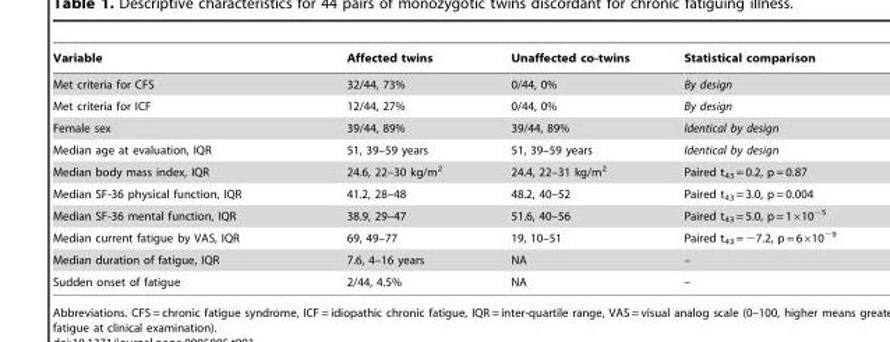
<table><thead><tr><td>Variable</td><td>Affected twins</td><td>Unaffected co-twins</td><td>Statistical comparison</td></tr></thead><tbody><tr><td>Met criteria for CFS</td><td>32/44, 73%</td><td>0/44, 0%</td><td>By design</td></tr><tr><td>Met criteria for ICF</td><td>12/44, 27%</td><td>0/44, 0%</td><td>By design</td></tr><tr><td>Female sex</td><td>39/44, 89%</td><td>39/44, 89%</td><td>Identical by design</td></tr><tr><td>Median age at evaluation, IQR</td><td>51, 39–59 years</td><td>51, 39–59 years</td><td>Identical by design</td></tr><tr><td>Median body mass index, IQR</td><td>24.6, 22–30 kg/m<sup>2</sup></td><td>24.4, 22–31 kg/m<sup>2</sup></td><td>Paired t<sub>43</sub> = 0.2, p = 0.87</td></tr><tr><td>Median SF-36 physical function, IQR</td><td>41.2, 28–48</td><td>48.2, 40–52</td><td>Paired t<sub>43</sub> = 3.0, p = 0.004</td></tr><tr><td>Median SF-36 mental function, IQR</td><td>38.9, 29–47</td><td>51.6, 40–56</td><td>Paired t<sub>43</sub> = 5.0, p = 1×10<sup>−5</sup></td></tr><tr><td>Median current fatigue by VAS, IQR</td><td>69, 49–77</td><td>19, 10–51</td><td>Paired t<sub>43</sub> = −7.2, p = 6×10<sup>−9</sup></td></tr><tr><td>Median duration of fatigue, IQR</td><td>7.6, 4–16 years</td><td>NA</td><td>–</td></tr><tr><td>Sudden onset of fatigue</td><td>2/44, 4.5%</td><td>NA</td><td>–</td></tr></tbody></table>